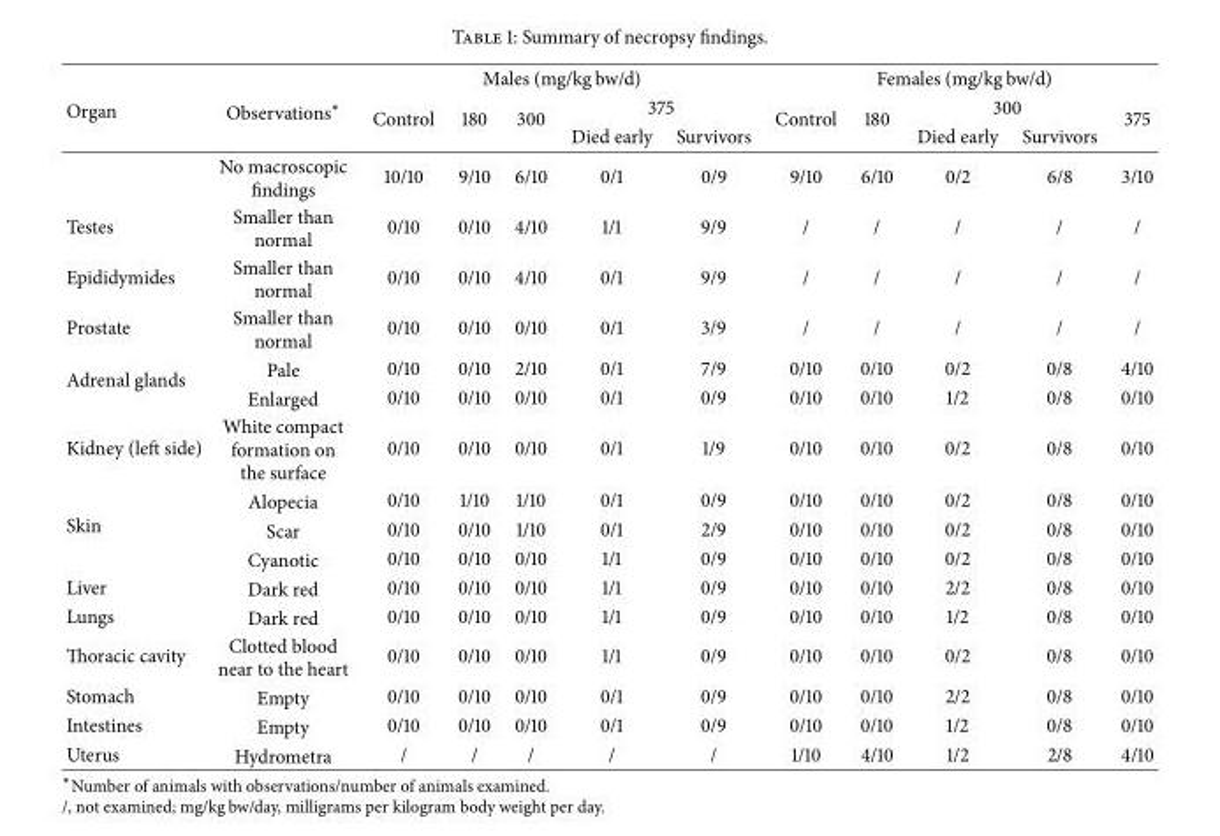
<table><thead><tr><td rowspan="3">Organ</td><td rowspan="3">Observations∗</td><td colspan="5">Males (mg/kg bw/d)</td><td colspan="5">Females (mg/kg bw/d)</td></tr><tr><td rowspan="2">Control</td><td rowspan="2">180</td><td rowspan="2">300</td><td colspan="2">375</td><td rowspan="2">Control</td><td rowspan="2">180</td><td colspan="2">300</td><td rowspan="2">375</td></tr><tr><td>Died early</td><td>Survivors</td><td>Died early</td><td>Survivors</td></tr></thead><tbody><tr><td></td><td>No macroscopic findings</td><td>10/10</td><td>9/10</td><td>6/10</td><td>0/1</td><td>0/9</td><td>9/10</td><td>6/10</td><td>0/2</td><td>6/8</td><td>3/10</td></tr><tr><td>Testes</td><td>Smaller than normal</td><td>0/10</td><td>0/10</td><td>4/10</td><td>1/1</td><td>9/9</td><td>/</td><td>/</td><td>/</td><td>/</td><td>/</td></tr><tr><td>Epididymides</td><td>Smaller than normal</td><td>0/10</td><td>0/10</td><td>4/10</td><td>0/1</td><td>9/9</td><td>/</td><td>/</td><td>/</td><td>/</td><td>/</td></tr><tr><td>Prostate</td><td>Smaller than normal</td><td>0/10</td><td>0/10</td><td>0/10</td><td>0/1</td><td>3/9</td><td>/</td><td>/</td><td>/</td><td>/</td><td>/</td></tr><tr><td rowspan="2">Adrenal glands</td><td>Pale</td><td>0/10</td><td>0/10</td><td>2/10</td><td>0/1</td><td>7/9</td><td>0/10</td><td>0/10</td><td>0/2</td><td>0/8</td><td>4/10</td></tr><tr><td>Enlarged</td><td>0/10</td><td>0/10</td><td>0/10</td><td>0/1</td><td>0/9</td><td>0/10</td><td>0/10</td><td>1/2</td><td>0/8</td><td>0/10</td></tr><tr><td>Kidney (left side)</td><td>White compact formation on the surface</td><td>0/10</td><td>0/10</td><td>0/10</td><td>0/1</td><td>1/9</td><td>0/10</td><td>0/10</td><td>0/2</td><td>0/8</td><td>0/10</td></tr><tr><td rowspan="3">Skin</td><td>Alopecia</td><td>0/10</td><td>1/10</td><td>1/10</td><td>0/1</td><td>0/9</td><td>0/10</td><td>0/10</td><td>0/2</td><td>0/8</td><td>0/10</td></tr><tr><td>Scar</td><td>0/10</td><td>0/10</td><td>1/10</td><td>0/1</td><td>2/9</td><td>0/10</td><td>0/10</td><td>0/2</td><td>0/8</td><td>0/10</td></tr><tr><td>Cyanotic</td><td>0/10</td><td>0/10</td><td>0/10</td><td>1/1</td><td>0/9</td><td>0/10</td><td>0/10</td><td>0/2</td><td>0/8</td><td>0/10</td></tr><tr><td>Liver</td><td>Dark red</td><td>0/10</td><td>0/10</td><td>0/10</td><td>1/1</td><td>0/9</td><td>0/10</td><td>0/10</td><td>2/2</td><td>0/8</td><td>0/10</td></tr><tr><td>Lungs</td><td>Dark red</td><td>0/10</td><td>0/10</td><td>0/10</td><td>1/1</td><td>0/9</td><td>0/10</td><td>0/10</td><td>1/2</td><td>0/8</td><td>0/10</td></tr><tr><td>Thoracic cavity</td><td>Clotted blood near to the heart</td><td>0/10</td><td>0/10</td><td>0/10</td><td>1/1</td><td>0/9</td><td>0/10</td><td>0/10</td><td>0/2</td><td>0/8</td><td>0/10</td></tr><tr><td>Stomach</td><td>Empty</td><td>0/10</td><td>0/10</td><td>0/10</td><td>0/1</td><td>0/9</td><td>0/10</td><td>0/10</td><td>2/2</td><td>0/8</td><td>0/10</td></tr><tr><td>Intestines</td><td>Empty</td><td>0/10</td><td>0/10</td><td>0/10</td><td>0/1</td><td>0/9</td><td>0/10</td><td>0/10</td><td>1/2</td><td>0/8</td><td>0/10</td></tr><tr><td>Uterus</td><td>Hydrometra</td><td>/</td><td>/</td><td>/</td><td>/</td><td>/</td><td>1/10</td><td>4/10</td><td>1/2</td><td>2/8</td><td>4/10</td></tr></tbody></table>